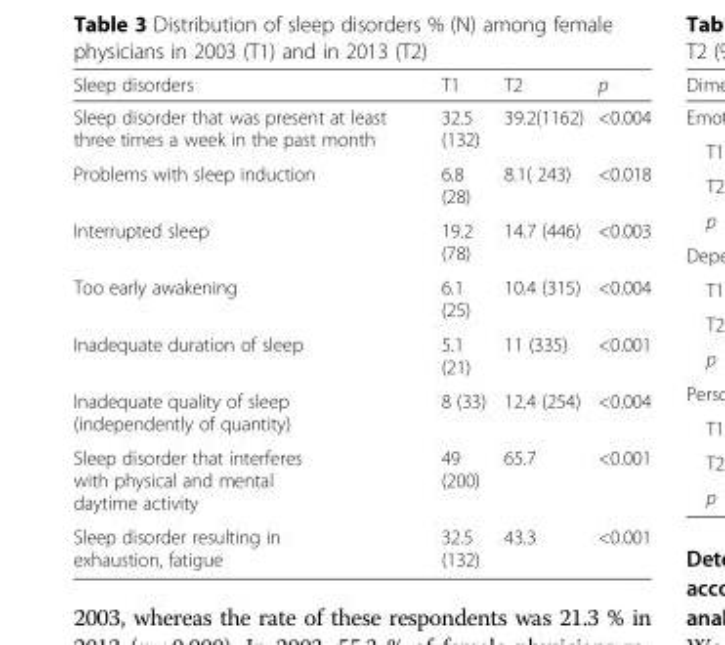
<table><thead><tr><td>Sleep disorders</td><td>T1</td><td>T2</td><td>p</td></tr></thead><tbody><tr><td>Sleep disorder that was present at least three times a week in the past month</td><td>32.5 (132)</td><td>39.2(1162)</td><td>&lt;0.004</td></tr><tr><td>Problems with sleep induction</td><td>6.8 (28)</td><td>8.1( 243)</td><td>&lt;0.018</td></tr><tr><td>Interrupted sleep</td><td>19.2 (78)</td><td>14.7 (446)</td><td>&lt;0.003</td></tr><tr><td>Too early awakening</td><td>6.1 (25)</td><td>10.4 (315)</td><td>&lt;0.004</td></tr><tr><td>Inadequate duration of sleep</td><td>5.1 (21)</td><td>11 (335)</td><td>&lt;0.001</td></tr><tr><td>Inadequate quality of sleep (independently of quantity)</td><td>8 (33)</td><td>12.4 (254)</td><td>&lt;0.004</td></tr><tr><td>Sleep disorder that interferes with physical and mental daytime activity</td><td>49 (200)</td><td>65.7</td><td>&lt;0.001</td></tr><tr><td>Sleep disorder resulting in exhaustion, fatigue</td><td>32.5 (132)</td><td>43.3</td><td>&lt;0.001</td></tr></tbody></table>